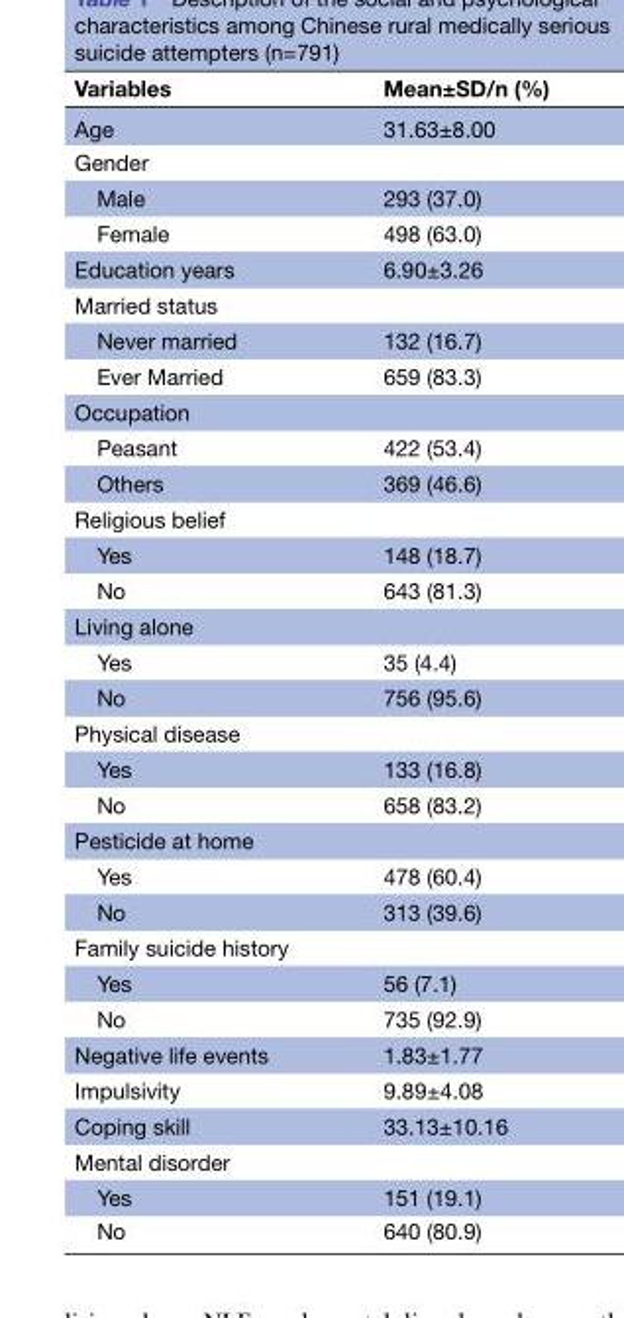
<table><thead><tr><td>Variables</td><td>Mean±SD/n (%)</td></tr></thead><tbody><tr><td>Age</td><td>31.63±8.00</td></tr><tr><td colspan="2">Gender</td></tr><tr><td>Male</td><td>293 (37.0)</td></tr><tr><td>Female</td><td>498 (63.0)</td></tr><tr><td>Education years</td><td>6.90±3.26</td></tr><tr><td colspan="2">Married status</td></tr><tr><td>Never married</td><td>132 (16.7)</td></tr><tr><td>Ever Married</td><td>659 (83.3)</td></tr><tr><td colspan="2">Occupation</td></tr><tr><td>Peasant</td><td>422 (53.4)</td></tr><tr><td>Others</td><td>369 (46.6)</td></tr><tr><td colspan="2">Religious belief</td></tr><tr><td>Yes</td><td>148 (18.7)</td></tr><tr><td>No</td><td>643 (81.3)</td></tr><tr><td colspan="2">Living alone</td></tr><tr><td>Yes</td><td>35 (4.4)</td></tr><tr><td>No</td><td>756 (95.6)</td></tr><tr><td colspan="2">Physical disease</td></tr><tr><td>Yes</td><td>133 (16.8)</td></tr><tr><td>No</td><td>658 (83.2)</td></tr><tr><td colspan="2">Pesticide at home</td></tr><tr><td>Yes</td><td>478 (60.4)</td></tr><tr><td>No</td><td>313 (39.6)</td></tr><tr><td colspan="2">Family suicide history</td></tr><tr><td>Yes</td><td>56 (7.1)</td></tr><tr><td>No</td><td>735 (92.9)</td></tr><tr><td>Negative life events</td><td>1.83±1.77</td></tr><tr><td>Impulsivity</td><td>9.89±4.08</td></tr><tr><td>Coping skill</td><td>33.13±10.16</td></tr><tr><td colspan="2">Mental disorder</td></tr><tr><td>Yes</td><td>151 (19.1)</td></tr><tr><td>No</td><td>640 (80.9)</td></tr></tbody></table>